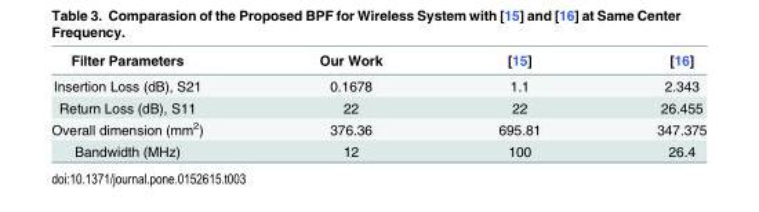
<table><thead><tr><td>Filter Parameters</td><td>Our Work</td><td>[15]</td><td>[16]</td></tr></thead><tbody><tr><td>Insertion Loss (dB), S21</td><td>0.1678</td><td>1.1</td><td>2.343</td></tr><tr><td>Return Loss (dB), S11</td><td>22</td><td>22</td><td>26.455</td></tr><tr><td>Overall dimension (mm<sup>2</sup>)</td><td>376.36</td><td>695.81</td><td>347.375</td></tr><tr><td>Bandwidth (MHz)</td><td>12</td><td>100</td><td>26.4</td></tr></tbody></table>